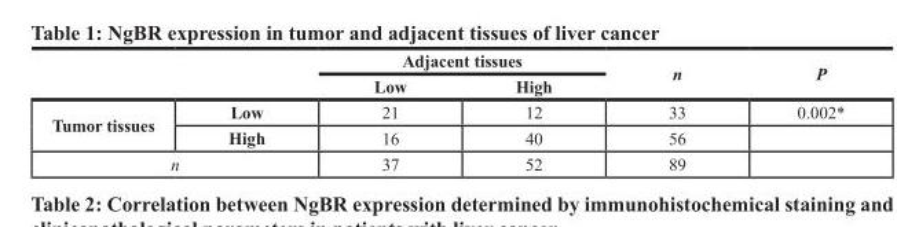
<table><thead><tr><td rowspan="2"></td><td rowspan="2"></td><td colspan="2">Adjacent tissues</td><td rowspan="2">n</td><td rowspan="2">P</td></tr><tr><td>Low</td><td>High</td></tr></thead><tbody><tr><td rowspan="2">Tumor tissues</td><td>Low</td><td>21</td><td>12</td><td>33</td><td>0.002*</td></tr><tr><td>High</td><td>16</td><td>40</td><td>56</td><td></td></tr><tr><td colspan="2">n</td><td>37</td><td>52</td><td>89</td><td></td></tr></tbody></table>